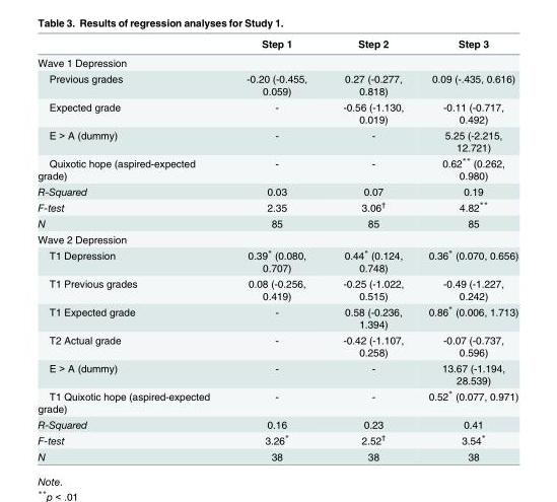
<table><thead><tr><td></td><td>Step 1</td><td>Step 2</td><td>Step 3</td></tr></thead><tbody><tr><td colspan="4">Wave 1 Depression</td></tr><tr><td>Previous grades</td><td>-0.20 (-0.455, 0.059)</td><td>0.27 (-0.277, 0.818)</td><td>0.09 (-.435, 0.616)</td></tr><tr><td>Expected grade</td><td>-</td><td>-0.56 (-1.130, 0.019)</td><td>-0.11 (-0.717, 0.492)</td></tr><tr><td>E &gt; A (dummy)</td><td>-</td><td>-</td><td>5.25 (-2.215, 12.721)</td></tr><tr><td>Quixotic hope (aspired-expected grade)</td><td>-</td><td>-</td><td>0.62** (0.262, 0.980)</td></tr><tr><td>R-Squared</td><td>0.03</td><td>0.07</td><td>0.19</td></tr><tr><td>F-test</td><td>2.35</td><td>3.06<sup>†</sup></td><td>4.82**</td></tr><tr><td>N</td><td>85</td><td>85</td><td>85</td></tr><tr><td colspan="4">Wave 2 Depression</td></tr><tr><td>T1 Depression</td><td>0.39* (0.080, 0.707)</td><td>0.44* (0.124, 0.748)</td><td>0.36* (0.070, 0.656)</td></tr><tr><td>T1 Previous grades</td><td>0.08 (-0.256, 0.419)</td><td>-0.25 (-1.022, 0.515)</td><td>-0.49 (-1.227, 0.242)</td></tr><tr><td>T1 Expected grade</td><td>-</td><td>0.58 (-0.236, 1.394)</td><td>0.86* (0.006, 1.713)</td></tr><tr><td>T2 Actual grade</td><td>-</td><td>-0.42 (-1.107, 0.258)</td><td>-0.07 (-0.737, 0.596)</td></tr><tr><td>E &gt; A (dummy)</td><td>-</td><td>-</td><td>13.67 (-1.194, 28.539)</td></tr><tr><td>T1 Quixotic hope (aspired-expected grade)</td><td>-</td><td>-</td><td>0.52* (0.077, 0.971)</td></tr><tr><td>R-Squared</td><td>0.16</td><td>0.23</td><td>0.41</td></tr><tr><td>F-test</td><td>3.26*</td><td>2.52<sup>†</sup></td><td>3.54*</td></tr><tr><td>N</td><td>38</td><td>38</td><td>38</td></tr></tbody></table>